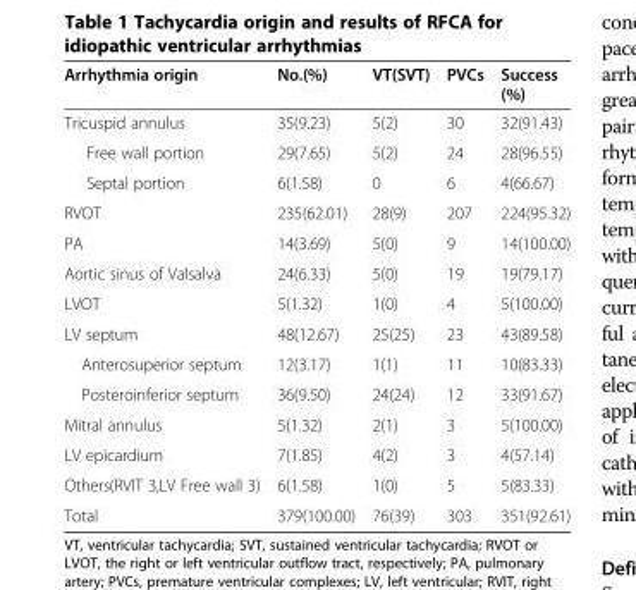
<table><thead><tr><td>Arrhythmia origin</td><td>No.(%)</td><td>VT(SVT)</td><td>PVCs</td><td>Success (%)</td></tr></thead><tbody><tr><td>Tricuspid annulus</td><td>35(9.23)</td><td>5(2)</td><td>30</td><td>32(91.43)</td></tr><tr><td>Free wall portion</td><td>29(7.65)</td><td>5(2)</td><td>24</td><td>28(96.55)</td></tr><tr><td>Septal portion</td><td>6(1.58)</td><td>0</td><td>6</td><td>4(66.67)</td></tr><tr><td>RVOT</td><td>235(62.01)</td><td>28(9)</td><td>207</td><td>224(95.32)</td></tr><tr><td>PA</td><td>14(3.69)</td><td>5(0)</td><td>9</td><td>14(100.00)</td></tr><tr><td>Aortic sinus of Valsalva</td><td>24(6.33)</td><td>5(0)</td><td>19</td><td>19(79.17)</td></tr><tr><td>LVOT</td><td>5(1.32)</td><td>1(0)</td><td>4</td><td>5(100.00)</td></tr><tr><td>LV septum</td><td>48(12.67)</td><td>25(25)</td><td>23</td><td>43(89.58)</td></tr><tr><td>Anterosuperior septum</td><td>12(3.17)</td><td>1(1)</td><td>11</td><td>10(83.33)</td></tr><tr><td>Posteroinferior septum</td><td>36(9.50)</td><td>24(24)</td><td>12</td><td>33(91.67)</td></tr><tr><td>Mitral annulus</td><td>5(1.32)</td><td>2(1)</td><td>3</td><td>5(100.00)</td></tr><tr><td>LV epicardium</td><td>7(1.85)</td><td>4(2)</td><td>3</td><td>4(57.14)</td></tr><tr><td>Others(RVIT 3,LV Free wall 3)</td><td>6(1.58)</td><td>1(0)</td><td>5</td><td>5(83.33)</td></tr><tr><td>Total</td><td>379(100.00)</td><td>76(39)</td><td>303</td><td>351(92.61)</td></tr></tbody></table>